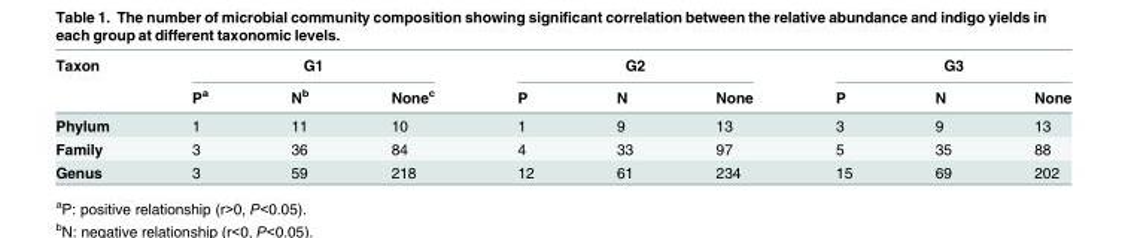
<table><thead><tr><td rowspan="2">Taxon</td><td colspan="3">G1</td><td colspan="3">G2</td><td colspan="3">G3</td></tr><tr><td>P<sup>a</sup></td><td>N<sup>b</sup></td><td>None<sup>c</sup></td><td>P</td><td>N</td><td>None</td><td>P</td><td>N</td><td>None</td></tr></thead><tbody><tr><td>Phylum</td><td>1</td><td>11</td><td>10</td><td>1</td><td>9</td><td>13</td><td>3</td><td>9</td><td>13</td></tr><tr><td>Family</td><td>3</td><td>36</td><td>84</td><td>4</td><td>33</td><td>97</td><td>5</td><td>35</td><td>88</td></tr><tr><td>Genus</td><td>3</td><td>59</td><td>218</td><td>12</td><td>61</td><td>234</td><td>15</td><td>69</td><td>202</td></tr></tbody></table>